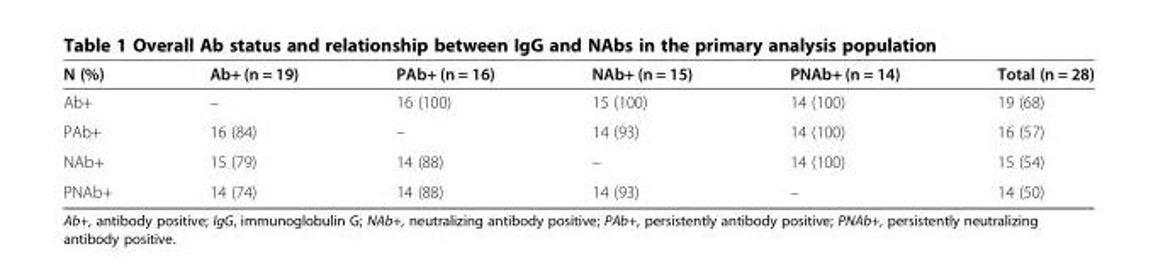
<table><thead><tr><td>N (%)</td><td>Ab+ (n = 19)</td><td>PAb+ (n = 16)</td><td>NAb+ (n = 15)</td><td>PNAb+ (n = 14)</td><td>Total (n = 28)</td></tr></thead><tbody><tr><td>Ab+</td><td>–</td><td>16 (100)</td><td>15 (100)</td><td>14 (100)</td><td>19 (68)</td></tr><tr><td>PAb+</td><td>16 (84)</td><td>–</td><td>14 (93)</td><td>14 (100)</td><td>16 (57)</td></tr><tr><td>NAb+</td><td>15 (79)</td><td>14 (88)</td><td>–</td><td>14 (100)</td><td>15 (54)</td></tr><tr><td>PNAb+</td><td>14 (74)</td><td>14 (88)</td><td>14 (93)</td><td>–</td><td>14 (50)</td></tr></tbody></table>